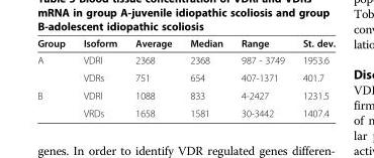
<table><thead><tr><td>Group</td><td>Isoform</td><td>Average</td><td>Median</td><td>Range</td><td>St. dev.</td></tr></thead><tbody><tr><td rowspan="2">A</td><td>VDRl</td><td>2368</td><td>2368</td><td>987 - 3749</td><td>1953.6</td></tr><tr><td>VDRs</td><td>751</td><td>654</td><td>407-1371</td><td>401.7</td></tr><tr><td rowspan="2">B</td><td>VDRl</td><td>1088</td><td>833</td><td>4-2427</td><td>1231.5</td></tr><tr><td>VRDs</td><td>1658</td><td>1581</td><td>30-3442</td><td>1407.4</td></tr></tbody></table>